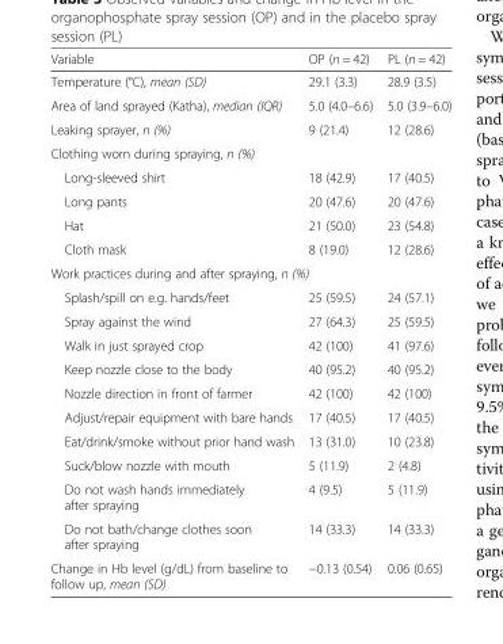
<table><thead><tr><td>Variable</td><td>OP (n = 42)</td><td>PL (n = 42)</td></tr></thead><tbody><tr><td>Temperature (°C), mean (SD)</td><td>29.1 (3.3)</td><td>28.9 (3.5)</td></tr><tr><td>Area of land sprayed (Katha), median (IQR)</td><td>5.0 (4.0–6.6)</td><td>5.0 (3.9–6.0)</td></tr><tr><td>Leaking sprayer, n (%)</td><td>9 (21.4)</td><td>12 (28.6)</td></tr><tr><td colspan="3">Clothing worn during spraying, n (%)</td></tr><tr><td>Long-sleeved shirt</td><td>18 (42.9)</td><td>17 (40.5)</td></tr><tr><td>Long pants</td><td>20 (47.6)</td><td>20 (47.6)</td></tr><tr><td>Hat</td><td>21 (50.0)</td><td>23 (54.8)</td></tr><tr><td>Cloth mask</td><td>8 (19.0)</td><td>12 (28.6)</td></tr><tr><td colspan="3">Work practices during and after spraying, n (%)</td></tr><tr><td>Splash/spill on e.g. hands/feet</td><td>25 (59.5)</td><td>24 (57.1)</td></tr><tr><td>Spray against the wind</td><td>27 (64.3)</td><td>25 (59.5)</td></tr><tr><td>Walk in just sprayed crop</td><td>42 (100)</td><td>41 (97.6)</td></tr><tr><td>Keep nozzle close to the body</td><td>40 (95.2)</td><td>40 (95.2)</td></tr><tr><td>Nozzle direction in front of farmer</td><td>42 (100)</td><td>42 (100)</td></tr><tr><td>Adjust/repair equipment with bare hands</td><td>17 (40.5)</td><td>17 (40.5)</td></tr><tr><td>Eat/drink/smoke without prior hand wash</td><td>13 (31.0)</td><td>10 (23.8)</td></tr><tr><td>Suck/blow nozzle with mouth</td><td>5 (11.9)</td><td>2 (4.8)</td></tr><tr><td>Do not wash hands immediately after spraying</td><td>4 (9.5)</td><td>5 (11.9)</td></tr><tr><td>Do not bath/change clothes soon after spraying</td><td>14 (33.3)</td><td>14 (33.3)</td></tr><tr><td>Change in Hb level (g/dL) from baseline to follow up, mean (SD)</td><td>−0.13 (0.54)</td><td>0.06 (0.65)</td></tr></tbody></table>